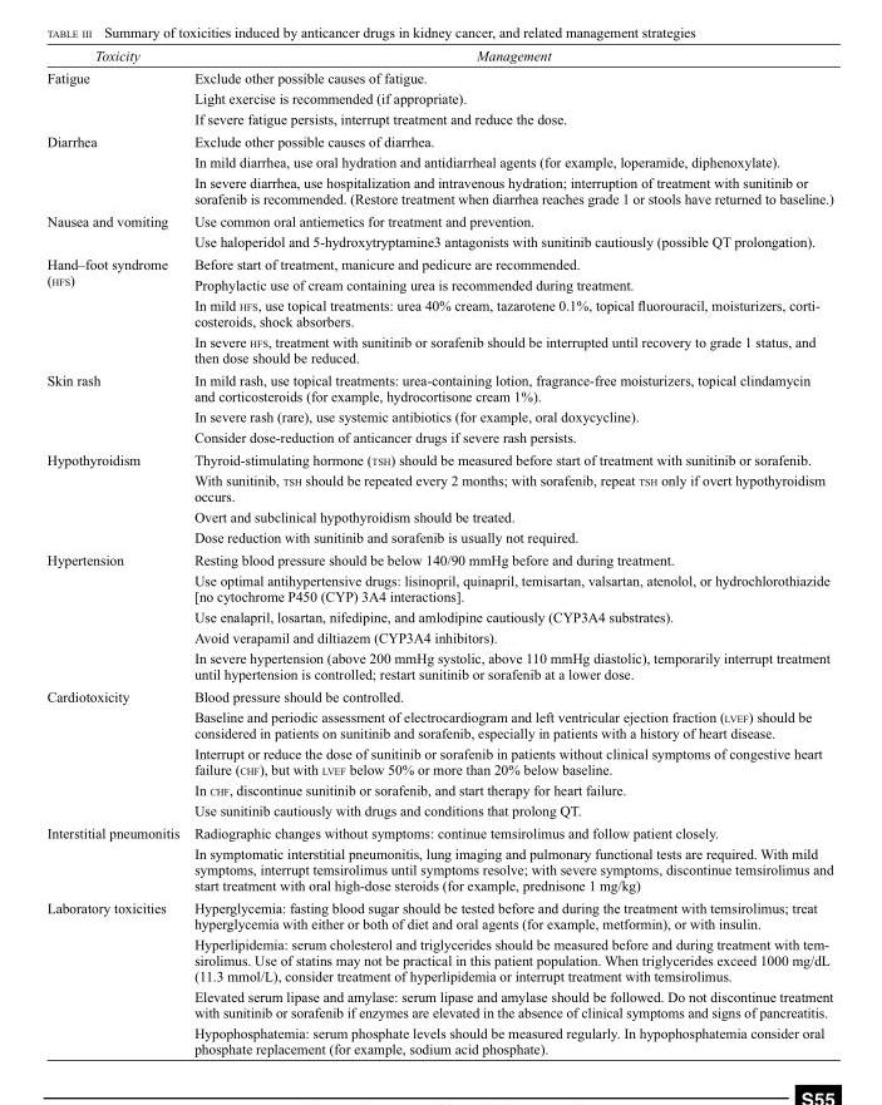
<table><thead><tr><td>Toxicity</td><td>Management</td></tr></thead><tbody><tr><td rowspan="3">Fatigue</td><td>Exclude other possible causes of fatigue.</td></tr><tr><td>Light exercise is recommended (if appropriate).</td></tr><tr><td>If severe fatigue persists, interrupt treatment and reduce the dose.</td></tr><tr><td rowspan="3">Diarrhea</td><td>Exclude other possible causes of diarrhea.</td></tr><tr><td>In mild diarrhea, use oral hydration and antidiarrheal agents (for example, loperamide, diphenoxylate).</td></tr><tr><td>In severe diarrhea, use hospitalization and intravenous hydration; interruption of treatment with sunitinib or sorafenib is recommended. (Restore treatment when diarrhea reaches grade 1 or stools have returned to baseline.)</td></tr><tr><td rowspan="2">Nausea and vomiting</td><td>Use common oral antiemetics for treatment and prevention.</td></tr><tr><td>Use haloperidol and 5-hydroxytryptamine3 antagonists with sunitinib cautiously (possible QT prolongation).</td></tr><tr><td rowspan="4">Hand–foot syndrome (hfs)</td><td>Before start of treatment, manicure and pedicure are recommended.</td></tr><tr><td>Prophylactic use of cream containing urea is recommended during treatment.</td></tr><tr><td>In mild hfs, use topical treatments: urea 40% cream, tazarotene 0.1%, topical fluorouracil, moisturizers, corti- costeroids, shock absorbers.</td></tr><tr><td>In severe hfs, treatment with sunitinib or sorafenib should be interrupted until recovery to grade 1 status, and then dose should be reduced.</td></tr><tr><td rowspan="3">Skin rash</td><td>In mild rash, use topical treatments: urea-containing lotion, fragrance-free moisturizers, topical clindamycin and corticosteroids (for example, hydrocortisone cream 1%).</td></tr><tr><td>In severe rash (rare), use systemic antibiotics (for example, oral doxycycline).</td></tr><tr><td>Consider dose-reduction of anticancer drugs if severe rash persists.</td></tr><tr><td rowspan="4">Hypothyroidism</td><td>Thyroid-stimulating hormone (tsh) should be measured before start of treatment with sunitinib or sorafenib.</td></tr><tr><td>With sunitinib, tsh should be repeated every 2 months; with sorafenib, repeat tsh only if overt hypothyroidism occurs.</td></tr><tr><td>Overt and subclinical hypothyroidism should be treated.</td></tr><tr><td>Dose reduction with sunitinib and sorafenib is usually not required.</td></tr><tr><td rowspan="5">Hypertension</td><td>Resting blood pressure should be below 140/90 mmHg before and during treatment.</td></tr><tr><td>Use optimal antihypertensive drugs: lisinopril, quinapril, temisartan, valsartan, atenolol, or hydrochlorothiazide [no cytochrome P450 (CYP) 3A4 interactions].</td></tr><tr><td>Use enalapril, losartan, nifedipine, and amlodipine cautiously (CYP3A4 substrates).</td></tr><tr><td>Avoid verapamil and diltiazem (CYP3A4 inhibitors).</td></tr><tr><td>In severe hypertension (above 200 mmHg systolic, above 110 mmHg diastolic), temporarily interrupt treatment until hypertension is controlled; restart sunitinib or sorafenib at a lower dose.</td></tr><tr><td rowspan="5">Cardiotoxicity</td><td>Blood pressure should be controlled.</td></tr><tr><td>Baseline and periodic assessment of electrocardiogram and left ventricular ejection fraction (lvef) should be considered in patients on sunitinib and sorafenib, especially in patients with a history of heart disease.</td></tr><tr><td>Interrupt or reduce the dose of sunitinib or sorafenib in patients without clinical symptoms of congestive heart failure (chf), but with lvef below 50% or more than 20% below baseline.</td></tr><tr><td>In chf, discontinue sunitinib or sorafenib, and start therapy for heart failure.</td></tr><tr><td>Use sunitinib cautiously with drugs and conditions that prolong QT.</td></tr><tr><td rowspan="2">Interstitial pneumonitis</td><td>Radiographic changes without symptoms: continue temsirolimus and follow patient closely.</td></tr><tr><td>In symptomatic interstitial pneumonitis, lung imaging and pulmonary functional tests are required. With mild symptoms, interrupt temsirolimus until symptoms resolve; with severe symptoms, discontinue temsirolimus and start treatment with oral high-dose steroids (for example, prednisone 1 mg/kg)</td></tr><tr><td rowspan="4">Laboratory toxicities</td><td>Hyperglycemia: fasting blood sugar should be tested before and during the treatment with temsirolimus; treat hyperglycemia with either or both of diet and oral agents (for example, metformin), or with insulin.</td></tr><tr><td>Hyperlipidemia: serum cholesterol and triglycerides should be measured before and during treatment with tem- sirolimus. Use of statins may not be practical in this patient population. When triglycerides exceed 1000 mg/dL (11.3 mmol/L), consider treatment of hyperlipidemia or interrupt treatment with temsirolimus.</td></tr><tr><td>Elevated serum lipase and amylase: serum lipase and amylase should be followed. Do not discontinue treatment with sunitinib or sorafenib if enzymes are elevated in the absence of clinical symptoms and signs of pancreatitis.</td></tr><tr><td>Hypophosphatemia: serum phosphate levels should be measured regularly. In hypophosphatemia consider oral phosphate replacement (for example, sodium acid phosphate).</td></tr></tbody></table>